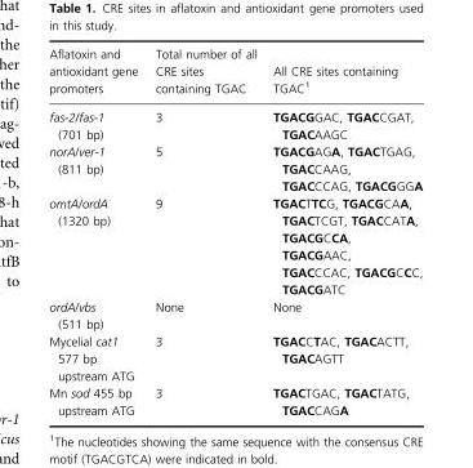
<table><thead><tr><td>Aflatoxin and antioxidant gene promoters</td><td>Total number of all CRE sites containing TGAC</td><td>All CRE sites containing TGAC<sup>1</sup></td></tr></thead><tbody><tr><td>fas-2/fas-1 (701 bp)</td><td>3</td><td>TGACGGAC, TGACCGAT, TGACAAGC</td></tr><tr><td>norA/ver-1 (811 bp)</td><td>5</td><td>TGACGAGA, TGACTGAG, TGACCAAG, TGACCCAG, TGACGGGA</td></tr><tr><td>omtA/ordA (1320 bp)</td><td>9</td><td>TGACTTCG, TGACGCAA, TGACTCGT, TGACCATA, TGACGCCA, TGACGAAC, TGACCCAC, TGACGCCC, TGACGATC</td></tr><tr><td>ordA/vbs (511 bp)</td><td>None</td><td>None</td></tr><tr><td>Mycelial cat1 577 bp upstream ATG</td><td>3</td><td>TGACCTAC, TGACACTT, TGACAGTT</td></tr><tr><td>Mn sod 455 bp upstream ATG</td><td>3</td><td>TGACTGAC, TGACTATG, TGACCAGA</td></tr></tbody></table>